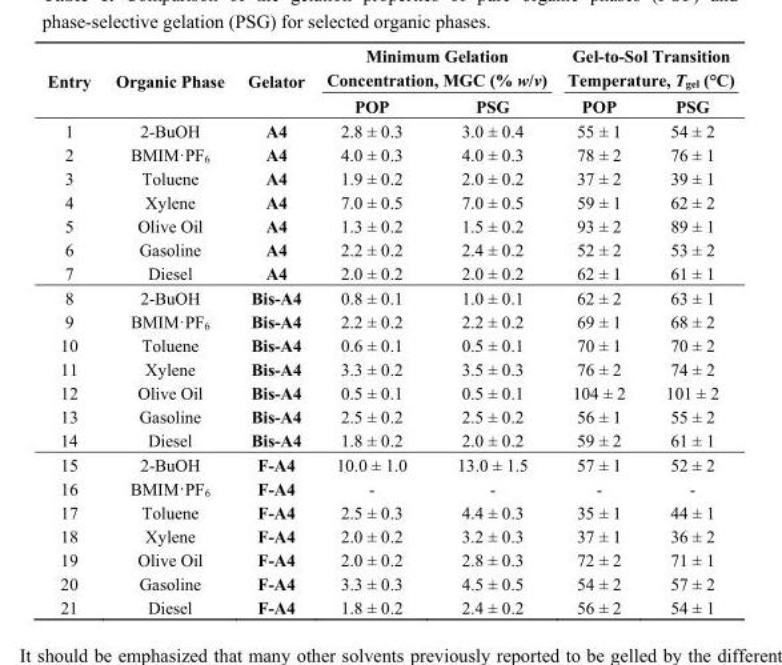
<table><thead><tr><td rowspan="2">Entry</td><td rowspan="2">Organic Phase</td><td rowspan="2">Gelator</td><td colspan="2">Minimum Gelation Concentration, MGC (% w/v)</td><td colspan="2">Gel-to-Sol Transition Temperature, T<sub>gel</sub> (°C)</td></tr><tr><td>POP</td><td>PSG</td><td>POP</td><td>PSG</td></tr></thead><tbody><tr><td>1</td><td>2-BuOH</td><td>A4</td><td>2.8 ± 0.3</td><td>3.0 ± 0.4</td><td>55 ± 1</td><td>54 ± 2</td></tr><tr><td>2</td><td>BMIM·PF<sub>6</sub></td><td>A4</td><td>4.0 ± 0.3</td><td>4.0 ± 0.3</td><td>78 ± 2</td><td>76 ± 1</td></tr><tr><td>3</td><td>Toluene</td><td>A4</td><td>1.9 ± 0.2</td><td>2.0 ± 0.2</td><td>37 ± 2</td><td>39 ± 1</td></tr><tr><td>4</td><td>Xylene</td><td>A4</td><td>7.0 ± 0.5</td><td>7.0 ± 0.5</td><td>59 ± 1</td><td>62 ± 2</td></tr><tr><td>5</td><td>Olive Oil</td><td>A4</td><td>1.3 ± 0.2</td><td>1.5 ± 0.2</td><td>93 ± 2</td><td>89 ± 1</td></tr><tr><td>6</td><td>Gasoline</td><td>A4</td><td>2.2 ± 0.2</td><td>2.4 ± 0.2</td><td>52 ± 2</td><td>53 ± 2</td></tr><tr><td>7</td><td>Diesel</td><td>A4</td><td>2.0 ± 0.2</td><td>2.0 ± 0.2</td><td>62 ± 1</td><td>61 ± 1</td></tr><tr><td>8</td><td>2-BuOH</td><td>Bis-A4</td><td>0.8 ± 0.1</td><td>1.0 ± 0.1</td><td>62 ± 2</td><td>63 ± 1</td></tr><tr><td>9</td><td>BMIM·PF<sub>6</sub></td><td>Bis-A4</td><td>2.2 ± 0.2</td><td>2.2 ± 0.2</td><td>69 ± 1</td><td>68 ± 2</td></tr><tr><td>10</td><td>Toluene</td><td>Bis-A4</td><td>0.6 ± 0.1</td><td>0.5 ± 0.1</td><td>70 ± 1</td><td>70 ± 2</td></tr><tr><td>11</td><td>Xylene</td><td>Bis-A4</td><td>3.3 ± 0.2</td><td>3.5 ± 0.3</td><td>76 ± 2</td><td>74 ± 2</td></tr><tr><td>12</td><td>Olive Oil</td><td>Bis-A4</td><td>0.5 ± 0.1</td><td>0.5 ± 0.1</td><td>104 ± 2</td><td>101 ± 2</td></tr><tr><td>13</td><td>Gasoline</td><td>Bis-A4</td><td>2.5 ± 0.2</td><td>2.5 ± 0.2</td><td>56 ± 1</td><td>55 ± 2</td></tr><tr><td>14</td><td>Diesel</td><td>Bis-A4</td><td>1.8 ± 0.2</td><td>2.0 ± 0.2</td><td>59 ± 2</td><td>61 ± 1</td></tr><tr><td>15</td><td>2-BuOH</td><td>F-A4</td><td>10.0 ± 1.0</td><td>13.0 ± 1.5</td><td>57 ± 1</td><td>52 ± 2</td></tr><tr><td>16</td><td>BMIM·PF<sub>6</sub></td><td>F-A4</td><td>-</td><td>-</td><td>-</td><td>-</td></tr><tr><td>17</td><td>Toluene</td><td>F-A4</td><td>2.5 ± 0.3</td><td>4.4 ± 0.3</td><td>35 ± 1</td><td>44 ± 1</td></tr><tr><td>18</td><td>Xylene</td><td>F-A4</td><td>2.0 ± 0.2</td><td>3.2 ± 0.3</td><td>37 ± 1</td><td>36 ± 2</td></tr><tr><td>19</td><td>Olive Oil</td><td>F-A4</td><td>2.0 ± 0.2</td><td>2.8 ± 0.3</td><td>72 ± 2</td><td>71 ± 1</td></tr><tr><td>20</td><td>Gasoline</td><td>F-A4</td><td>3.3 ± 0.3</td><td>4.5 ± 0.5</td><td>54 ± 2</td><td>57 ± 2</td></tr><tr><td>21</td><td>Diesel</td><td>F-A4</td><td>1.8 ± 0.2</td><td>2.4 ± 0.2</td><td>56 ± 2</td><td>54 ± 1</td></tr></tbody></table>